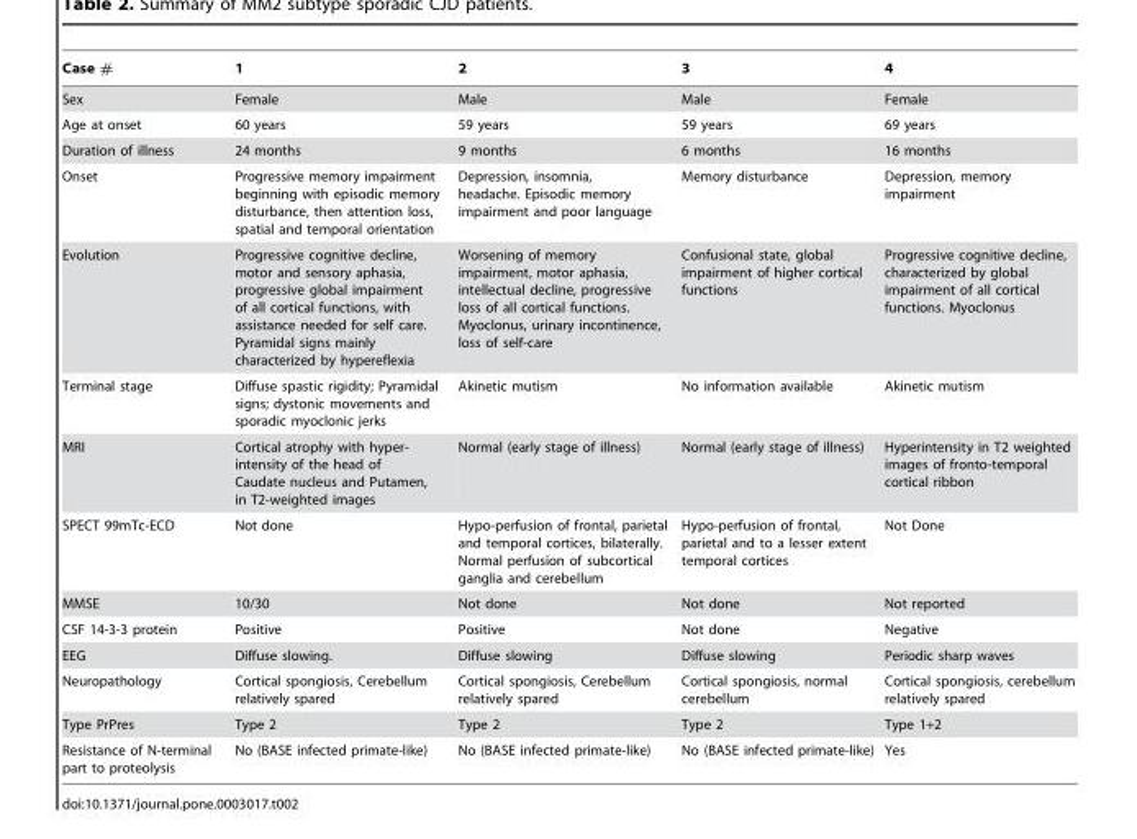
<table><thead><tr><td>Case #</td><td>1</td><td>2</td><td>3</td><td>4</td></tr></thead><tbody><tr><td>Sex</td><td>Female</td><td>Male</td><td>Male</td><td>Female</td></tr><tr><td>Age at onset</td><td>60 years</td><td>59 years</td><td>59 years</td><td>69 years</td></tr><tr><td>Duration of illness</td><td>24 months</td><td>9 months</td><td>6 months</td><td>16 months</td></tr><tr><td>Onset</td><td>Progressive memory impairment beginning with episodic memory disturbance, then attention loss, spatial and temporal orientation</td><td>Depression, insomnia, headache. Episodic memory impairment and poor language</td><td>Memory disturbance</td><td>Depression, memory impairment</td></tr><tr><td>Evolution</td><td>Progressive cognitive decline, motor and sensory aphasia, progressive global impairment of all cortical functions, with assistance needed for self care. Pyramidal signs mainly characterized by hypereflexia</td><td>Worsening of memory impairment, motor aphasia, intellectual decline, progressive loss of all cortical functions. Myoclonus, urinary incontinence, loss of self-care</td><td>Confusional state, global impairment of higher cortical functions</td><td>Progressive cognitive decline, characterized by global impairment of all cortical functions. Myoclonus</td></tr><tr><td>Terminal stage</td><td>Diffuse spastic rigidity; Pyramidal signs; dystonic movements and sporadic myoclonic jerks</td><td>Akinetic mutism</td><td>No information available</td><td>Akinetic mutism</td></tr><tr><td>MRI</td><td>Cortical atrophy with hyper- intensity of the head of Caudate nucleus and Putamen, in T2-weighted images</td><td>Normal (early stage of illness)</td><td>Normal (early stage of illness)</td><td>Hyperintensity in T2 weighted images of fronto-temporal cortical ribbon</td></tr><tr><td>SPECT 99mTc-ECD</td><td>Not done</td><td>Hypo-perfusion of frontal, parietal and temporal cortices, bilaterally. Normal perfusion of subcortical ganglia and cerebellum</td><td>Hypo-perfusion of frontal, parietal and to a lesser extent temporal cortices</td><td>Not Done</td></tr><tr><td>MMSE</td><td>10/30</td><td>Not done</td><td>Not done</td><td>Not reported</td></tr><tr><td>CSF 14-3-3 protein</td><td>Positive</td><td>Positive</td><td>Not done</td><td>Negative</td></tr><tr><td>EEG</td><td>Diffuse slowing.</td><td>Diffuse slowing</td><td>Diffuse slowing</td><td>Periodic sharp waves</td></tr><tr><td>Neuropathology</td><td>Cortical spongiosis, Cerebellum relatively spared</td><td>Cortical spongiosis, Cerebellum relatively spared</td><td>Cortical spongiosis, normal cerebellum</td><td>Cortical spongiosis, cerebellum relatively spared</td></tr><tr><td>Type PrPres</td><td>Type 2</td><td>Type 2</td><td>Type 2</td><td>Type 1+2</td></tr><tr><td>Resistance of N-terminal part to proteolysis</td><td>No (BASE infected primate-like)</td><td>No (BASE infected primate-like)</td><td>No (BASE infected primate-like)</td><td>Yes</td></tr></tbody></table>